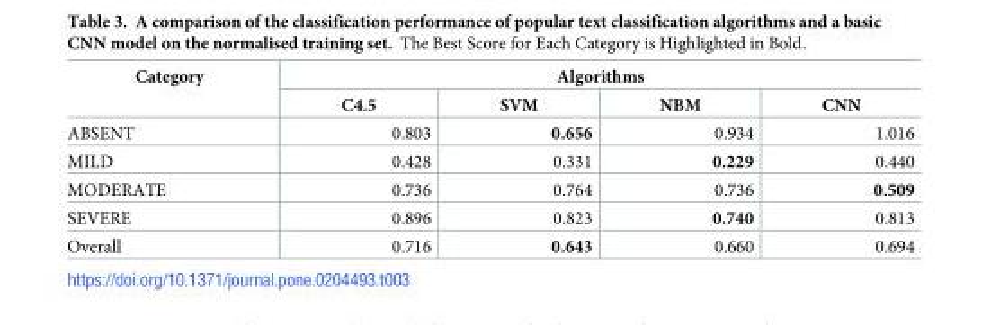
<table><thead><tr><td rowspan="2">Category</td><td colspan="4">Algorithms</td></tr><tr><td>C4.5</td><td>SVM</td><td>NBM</td><td>CNN</td></tr></thead><tbody><tr><td>ABSENT</td><td>0.803</td><td>0.656</td><td>0.934</td><td>1.016</td></tr><tr><td>MILD</td><td>0.428</td><td>0.331</td><td>0.229</td><td>0.440</td></tr><tr><td>MODERATE</td><td>0.736</td><td>0.764</td><td>0.736</td><td>0.509</td></tr><tr><td>SEVERE</td><td>0.896</td><td>0.823</td><td>0.740</td><td>0.813</td></tr><tr><td>Overall</td><td>0.716</td><td>0.643</td><td>0.660</td><td>0.694</td></tr></tbody></table>